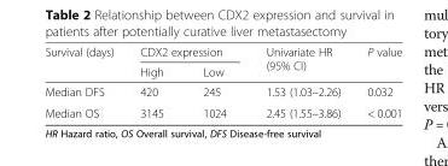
<table><thead><tr><td rowspan="2">Survival (days)</td><td colspan="2">CDX2 expression</td><td rowspan="2">Univariate HR (95% CI)</td><td rowspan="2">P value</td></tr><tr><td>High</td><td>Low</td></tr></thead><tbody><tr><td>Median DFS</td><td>420</td><td>245</td><td>1.53 (1.03–2.26)</td><td>0.032</td></tr><tr><td>Median OS</td><td>3145</td><td>1024</td><td>2.45 (1.55–3.86)</td><td>&lt; 0.001</td></tr></tbody></table>